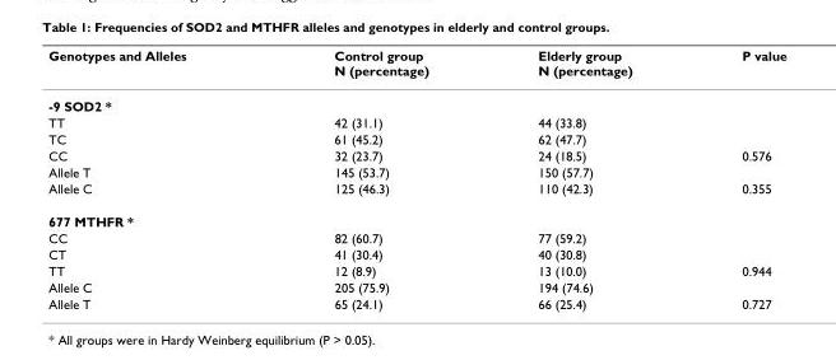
<table><thead><tr><td>Genotypes and Alleles</td><td>Control group N (percentage)</td><td>Elderly group N (percentage)</td><td>P value</td></tr></thead><tbody><tr><td colspan="4">-9 SOD2 *</td></tr><tr><td>TT</td><td>42 (31.1)</td><td>44 (33.8)</td><td></td></tr><tr><td>TC</td><td>61 (45.2)</td><td>62 (47.7)</td><td></td></tr><tr><td>CC</td><td>32 (23.7)</td><td>24 (18.5)</td><td>0.576</td></tr><tr><td>Allele T</td><td>145 (53.7)</td><td>150 (57.7)</td><td></td></tr><tr><td>Allele C</td><td>125 (46.3)</td><td>110 (42.3)</td><td>0.355</td></tr><tr><td colspan="4">677 MTHFR *</td></tr><tr><td>CC</td><td>82 (60.7)</td><td>77 (59.2)</td><td></td></tr><tr><td>CT</td><td>41 (30.4)</td><td>40 (30.8)</td><td></td></tr><tr><td>TT</td><td>12 (8.9)</td><td>13 (10.0)</td><td>0.944</td></tr><tr><td>Allele C</td><td>205 (75.9)</td><td>194 (74.6)</td><td></td></tr><tr><td>Allele T</td><td>65 (24.1)</td><td>66 (25.4)</td><td>0.727</td></tr></tbody></table>